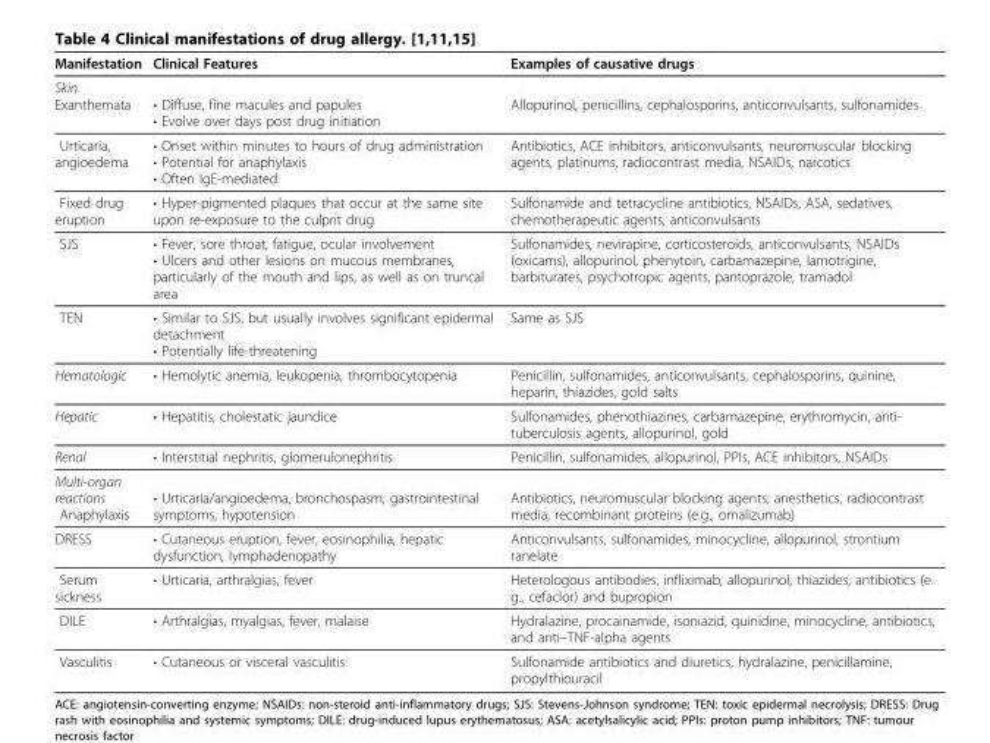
<table><thead><tr><td>Manifestation</td><td>Clinical Features</td><td>Examples of causative drugs</td></tr></thead><tbody><tr><td>Skin Exanthemata</td><td>• Diffuse, fine macules and papules • Evolve over days post drug initiation</td><td>Allopurinol, penicillins, cephalosporins, anticonvulsants, sulfonamides</td></tr><tr><td>Urticaria, angioedema</td><td>• Onset within minutes to hours of drug administration • Potential for anaphylaxis • Often IgE-mediated</td><td>Antibiotics, ACE inhibitors, anticonvulsants, neuromuscular blocking agents, platinums, radiocontrast media, NSAIDs, narcotics</td></tr><tr><td>Fixed drug eruption</td><td>• Hyper-pigmented plaques that occur at the same site upon re-exposure to the culprit drug</td><td>Sulfonamide and tetracycline antibiotics, NSAIDs, ASA, sedatives, chemotherapeutic agents, anticonvulsants</td></tr><tr><td>SJS</td><td>• Fever, sore throat, fatigue, ocular involvement • Ulcers and other lesions on mucous membranes, particularly of the mouth and lips, as well as on truncal area</td><td>Sulfonamides, nevirapine, corticosteroids, anticonvulsants, NSAIDs (oxicams), allopurinol, phenytoin, carbamazepine, lamotrigine, barbiturates, psychotropic agents, pantoprazole, tramadol</td></tr><tr><td>TEN</td><td>• Similar to SJS, but usually involves significant epidermal detachment • Potentially life-threatening</td><td>Same as SJS</td></tr><tr><td>Hematologic</td><td>• Hemolytic anemia, leukopenia, thrombocytopenia</td><td>Penicillin, sulfonamides, anticonvulsants, cephalosporins, quinine, heparin, thiazides, gold salts</td></tr><tr><td>Hepatic</td><td>• Hepatitis, cholestatic jaundice</td><td>Sulfonamides, phenothiazines, carbamazepine, erythromycin, anti- tuberculosis agents, allopurinol, gold</td></tr><tr><td>Renal</td><td>• Interstitial nephritis, glomerulonephritis</td><td>Penicillin, sulfonamides, allopurinol, PPIs, ACE inhibitors, NSAIDs</td></tr><tr><td>Multi-organ reactions Anaphylaxis</td><td>• Urticaria/angioedema, bronchospasm, gastrointestinal symptoms, hypotension</td><td>Antibiotics, neuromuscular blocking agents, anesthetics, radiocontrast media, recombinant proteins (e.g., omalizumab)</td></tr><tr><td>DRESS</td><td>• Cutaneous eruption, fever, eosinophilia, hepatic dysfunction, lymphadenopathy</td><td>Anticonvulsants, sulfonamides, minocycline, allopurinol, strontium ranelate</td></tr><tr><td>Serum sickness</td><td>• Urticaria, arthralgias, fever</td><td>Heterologous antibodies, infliximab, allopurinol, thiazides, antibiotics (e. g., cefaclor) and bupropion</td></tr><tr><td>DILE</td><td>• Arthralgias, myalgias, fever, malaise</td><td>Hydralazine, procainamide, isoniazid, quinidine, minocycline, antibiotics, and anti–TNF-alpha agents</td></tr><tr><td>Vasculitis</td><td>• Cutaneous or visceral vasculitis</td><td>Sulfonamide antibiotics and diuretics, hydralazine, penicillamine, propylthiouracil</td></tr></tbody></table>